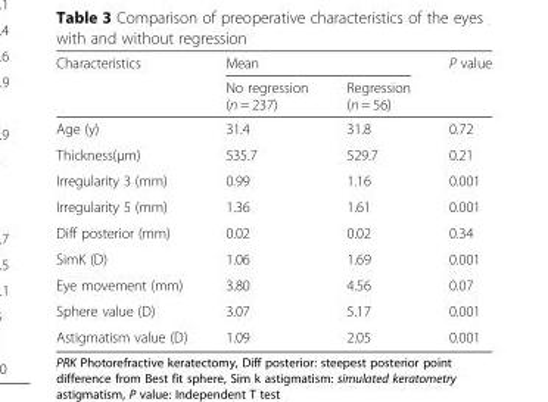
<table><thead><tr><td rowspan="2">Characteristics</td><td colspan="2">Mean</td><td rowspan="2">P value</td></tr><tr><td>No regression (n = 237)</td><td>Regression (n = 56)</td></tr></thead><tbody><tr><td>Age (y)</td><td>31.4</td><td>31.8</td><td>0.72</td></tr><tr><td>Thickness(μm)</td><td>535.7</td><td>529.7</td><td>0.21</td></tr><tr><td>Irregularity 3 (mm)</td><td>0.99</td><td>1.16</td><td>0.001</td></tr><tr><td>Irregularity 5 (mm)</td><td>1.36</td><td>1.61</td><td>0.001</td></tr><tr><td>Diff posterior (mm)</td><td>0.02</td><td>0.02</td><td>0.34</td></tr><tr><td>SimK (D)</td><td>1.06</td><td>1.69</td><td>0.001</td></tr><tr><td>Eye movement (mm)</td><td>3.80</td><td>4.56</td><td>0.07</td></tr><tr><td>Sphere value (D)</td><td>3.07</td><td>5.17</td><td>0.001</td></tr><tr><td>Astigmatism value (D)</td><td>1.09</td><td>2.05</td><td>0.001</td></tr></tbody></table>